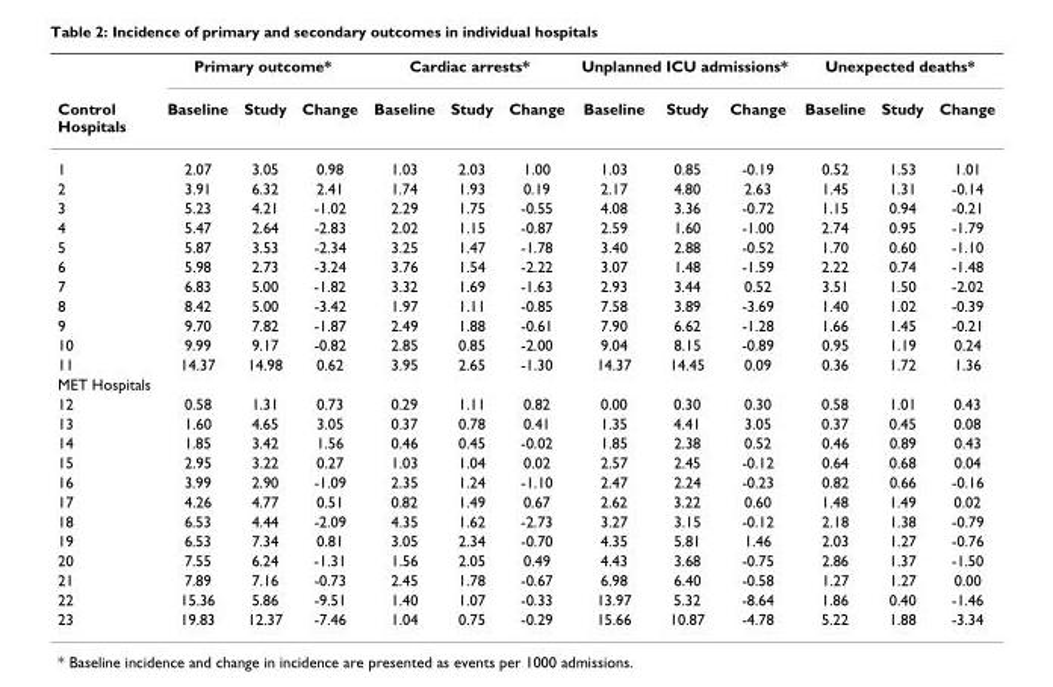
<table><thead><tr><td rowspan="2">Control Hospitals</td><td colspan="3">Primary outcome*</td><td colspan="3">Cardiac arrests*</td><td colspan="3">Unplanned ICU admissions*</td><td colspan="3">Unexpected deaths*</td></tr><tr><td>Baseline</td><td>Study</td><td>Change</td><td>Baseline</td><td>Study</td><td>Change</td><td>Baseline</td><td>Study</td><td>Change</td><td>Baseline</td><td>Study</td><td>Change</td></tr></thead><tbody><tr><td>1</td><td>2.07</td><td>3.05</td><td>0.98</td><td>1.03</td><td>2.03</td><td>1.00</td><td>1.03</td><td>0.85</td><td>-0.19</td><td>0.52</td><td>1.53</td><td>1.01</td></tr><tr><td>2</td><td>3.91</td><td>6.32</td><td>2.41</td><td>1.74</td><td>1.93</td><td>0.19</td><td>2.17</td><td>4.80</td><td>2.63</td><td>1.45</td><td>1.31</td><td>-0.14</td></tr><tr><td>3</td><td>5.23</td><td>4.21</td><td>-1.02</td><td>2.29</td><td>1.75</td><td>-0.55</td><td>4.08</td><td>3.36</td><td>-0.72</td><td>1.15</td><td>0.94</td><td>-0.21</td></tr><tr><td>4</td><td>5.47</td><td>2.64</td><td>-2.83</td><td>2.02</td><td>1.15</td><td>-0.87</td><td>2.59</td><td>1.60</td><td>-1.00</td><td>2.74</td><td>0.95</td><td>-1.79</td></tr><tr><td>5</td><td>5.87</td><td>3.53</td><td>-2.34</td><td>3.25</td><td>1.47</td><td>-1.78</td><td>3.40</td><td>2.88</td><td>-0.52</td><td>1.70</td><td>0.60</td><td>-1.10</td></tr><tr><td>6</td><td>5.98</td><td>2.73</td><td>-3.24</td><td>3.76</td><td>1.54</td><td>-2.22</td><td>3.07</td><td>1.48</td><td>-1.59</td><td>2.22</td><td>0.74</td><td>-1.48</td></tr><tr><td>7</td><td>6.83</td><td>5.00</td><td>-1.82</td><td>3.32</td><td>1.69</td><td>-1.63</td><td>2.93</td><td>3.44</td><td>0.52</td><td>3.51</td><td>1.50</td><td>-2.02</td></tr><tr><td>8</td><td>8.42</td><td>5.00</td><td>-3.42</td><td>1.97</td><td>1.11</td><td>-0.85</td><td>7.58</td><td>3.89</td><td>-3.69</td><td>1.40</td><td>1.02</td><td>-0.39</td></tr><tr><td>9</td><td>9.70</td><td>7.82</td><td>-1.87</td><td>2.49</td><td>1.88</td><td>-0.61</td><td>7.90</td><td>6.62</td><td>-1.28</td><td>1.66</td><td>1.45</td><td>-0.21</td></tr><tr><td>10</td><td>9.99</td><td>9.17</td><td>-0.82</td><td>2.85</td><td>0.85</td><td>-2.00</td><td>9.04</td><td>8.15</td><td>-0.89</td><td>0.95</td><td>1.19</td><td>0.24</td></tr><tr><td>11</td><td>14.37</td><td>14.98</td><td>0.62</td><td>3.95</td><td>2.65</td><td>-1.30</td><td>14.37</td><td>14.45</td><td>0.09</td><td>0.36</td><td>1.72</td><td>1.36</td></tr><tr><td colspan="13">MET Hospitals</td></tr><tr><td>12</td><td>0.58</td><td>1.31</td><td>0.73</td><td>0.29</td><td>1.11</td><td>0.82</td><td>0.00</td><td>0.30</td><td>0.30</td><td>0.58</td><td>1.01</td><td>0.43</td></tr><tr><td>13</td><td>1.60</td><td>4.65</td><td>3.05</td><td>0.37</td><td>0.78</td><td>0.41</td><td>1.35</td><td>4.41</td><td>3.05</td><td>0.37</td><td>0.45</td><td>0.08</td></tr><tr><td>14</td><td>1.85</td><td>3.42</td><td>1.56</td><td>0.46</td><td>0.45</td><td>-0.02</td><td>1.85</td><td>2.38</td><td>0.52</td><td>0.46</td><td>0.89</td><td>0.43</td></tr><tr><td>15</td><td>2.95</td><td>3.22</td><td>0.27</td><td>1.03</td><td>1.04</td><td>0.02</td><td>2.57</td><td>2.45</td><td>-0.12</td><td>0.64</td><td>0.68</td><td>0.04</td></tr><tr><td>16</td><td>3.99</td><td>2.90</td><td>-1.09</td><td>2.35</td><td>1.24</td><td>-1.10</td><td>2.47</td><td>2.24</td><td>-0.23</td><td>0.82</td><td>0.66</td><td>-0.16</td></tr><tr><td>17</td><td>4.26</td><td>4.77</td><td>0.51</td><td>0.82</td><td>1.49</td><td>0.67</td><td>2.62</td><td>3.22</td><td>0.60</td><td>1.48</td><td>1.49</td><td>0.02</td></tr><tr><td>18</td><td>6.53</td><td>4.44</td><td>-2.09</td><td>4.35</td><td>1.62</td><td>-2.73</td><td>3.27</td><td>3.15</td><td>-0.12</td><td>2.18</td><td>1.38</td><td>-0.79</td></tr><tr><td>19</td><td>6.53</td><td>7.34</td><td>0.81</td><td>3.05</td><td>2.34</td><td>-0.70</td><td>4.35</td><td>5.81</td><td>1.46</td><td>2.03</td><td>1.27</td><td>-0.76</td></tr><tr><td>20</td><td>7.55</td><td>6.24</td><td>-1.31</td><td>1.56</td><td>2.05</td><td>0.49</td><td>4.43</td><td>3.68</td><td>-0.75</td><td>2.86</td><td>1.37</td><td>-1.50</td></tr><tr><td>21</td><td>7.89</td><td>7.16</td><td>-0.73</td><td>2.45</td><td>1.78</td><td>-0.67</td><td>6.98</td><td>6.40</td><td>-0.58</td><td>1.27</td><td>1.27</td><td>0.00</td></tr><tr><td>22</td><td>15.36</td><td>5.86</td><td>-9.51</td><td>1.40</td><td>1.07</td><td>-0.33</td><td>13.97</td><td>5.32</td><td>-8.64</td><td>1.86</td><td>0.40</td><td>-1.46</td></tr><tr><td>23</td><td>19.83</td><td>12.37</td><td>-7.46</td><td>1.04</td><td>0.75</td><td>-0.29</td><td>15.66</td><td>10.87</td><td>-4.78</td><td>5.22</td><td>1.88</td><td>-3.34</td></tr></tbody></table>